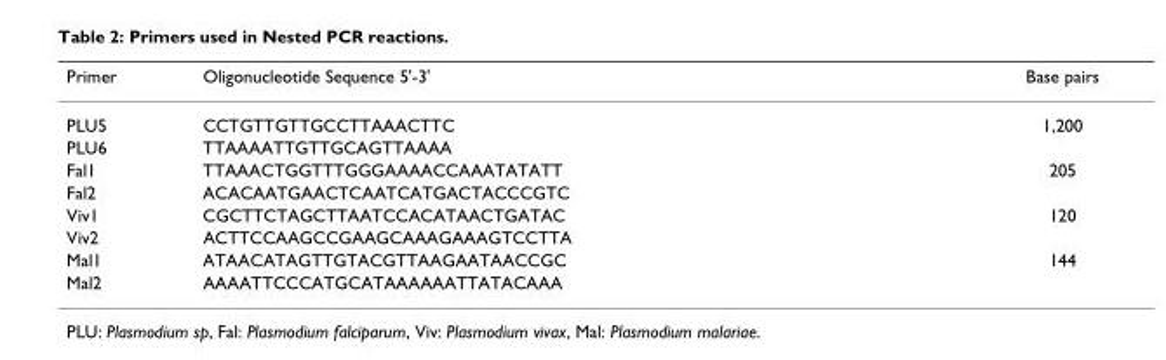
<table><thead><tr><td>Primer</td><td>Oligonucleotide Sequence 5&#x27;-3&#x27;</td><td>Base pairs</td></tr></thead><tbody><tr><td>PLU5</td><td>CCTGTTGTTGCCTTAAACTTC</td><td>1,200</td></tr><tr><td>PLU6</td><td>TTAAAATTGTTGCAGTTAAAA</td><td></td></tr><tr><td>Fal1</td><td>TTAAACTGGTTTGGGAAAACCAAATATATT</td><td>205</td></tr><tr><td>Fal2</td><td>ACACAATGAACTCAATCATGACTACCCGTC</td><td></td></tr><tr><td>Viv1</td><td>CGCTTCTAGCTTAATCCACATAACTGATAC</td><td>120</td></tr><tr><td>Viv2</td><td>ACTTCCAAGCCGAAGCAAAGAAAGTCCTTA</td><td></td></tr><tr><td>Mal1</td><td>ATAACATAGTTGTACGTTAAGAATAACCGC</td><td>144</td></tr><tr><td>Mal2</td><td>AAAATTCCCATGCATAAAAAATTATACAAA</td><td></td></tr></tbody></table>